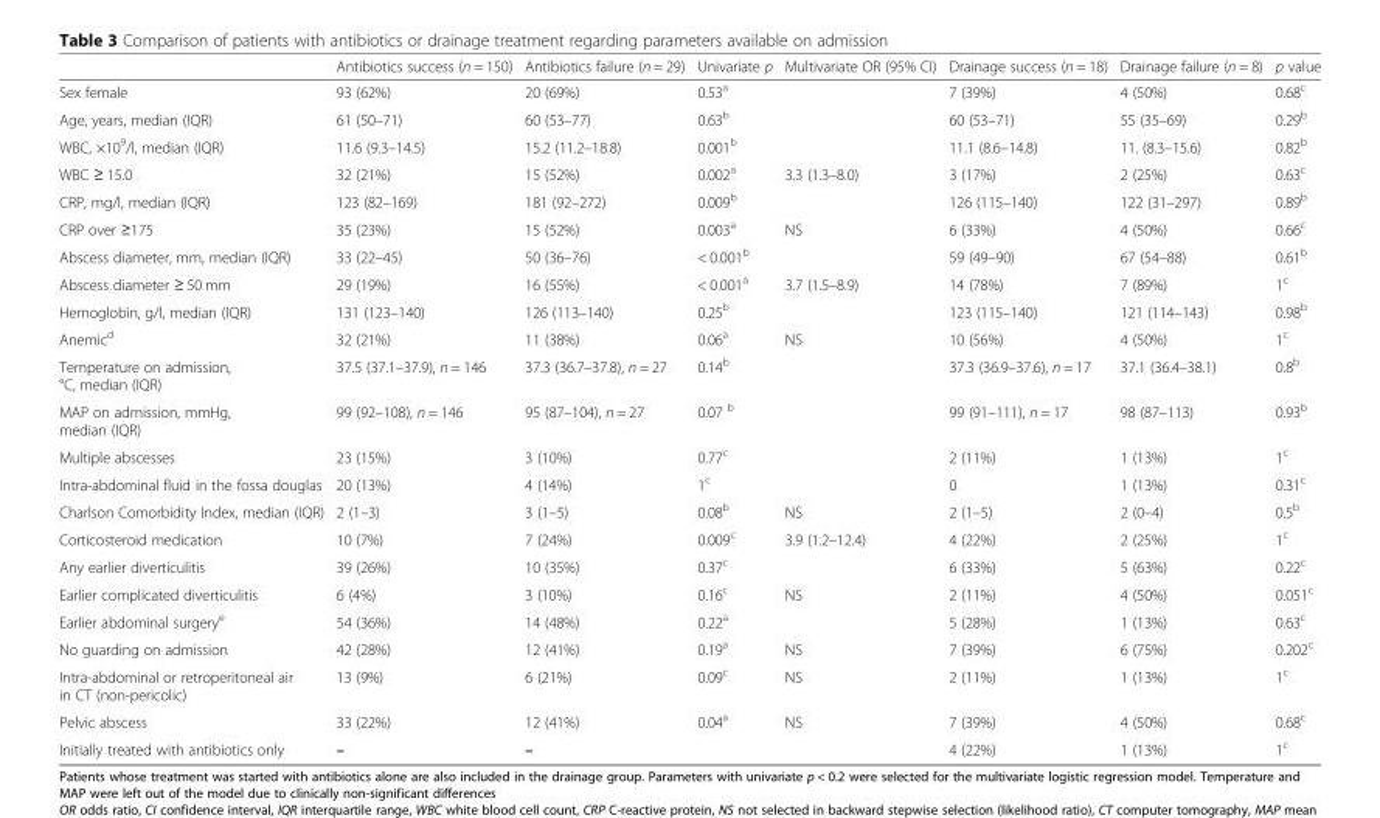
<table><thead><tr><td></td><td>Antibiotics success (n = 150)</td><td>Antibiotics failure (n = 29)</td><td>Univariate p</td><td>Multivariate OR (95% CI)</td><td>Drainage success (n = 18)</td><td>Drainage failure (n = 8)</td><td>p value</td></tr></thead><tbody><tr><td>Sex female</td><td>93 (62%)</td><td>20 (69%)</td><td>0.53<sup>a</sup></td><td></td><td>7 (39%)</td><td>4 (50%)</td><td>0.68<sup>c</sup></td></tr><tr><td>Age, years, median (IQR)</td><td>61 (50–71)</td><td>60 (53–77)</td><td>0.63<sup>b</sup></td><td></td><td>60 (53–71)</td><td>55 (35–69)</td><td>0.29<sup>b</sup></td></tr><tr><td>WBC, ×10<sup>9</sup>/l, median (IQR)</td><td>11.6 (9.3–14.5)</td><td>15.2 (11.2–18.8)</td><td>0.001<sup>b</sup></td><td></td><td>11.1 (8.6–14.8)</td><td>11. (8.3–15.6)</td><td>0.82<sup>b</sup></td></tr><tr><td>WBC ≥ 15.0</td><td>32 (21%)</td><td>15 (52%)</td><td>0.002<sup>a</sup></td><td>3.3 (1.3–8.0)</td><td>3 (17%)</td><td>2 (25%)</td><td>0.63<sup>c</sup></td></tr><tr><td>CRP, mg/l, median (IQR)</td><td>123 (82–169)</td><td>181 (92–272)</td><td>0.009<sup>b</sup></td><td></td><td>126 (115–140)</td><td>122 (31–297)</td><td>0.89<sup>b</sup></td></tr><tr><td>CRP over ≥175</td><td>35 (23%)</td><td>15 (52%)</td><td>0.003<sup>a</sup></td><td>NS</td><td>6 (33%)</td><td>4 (50%)</td><td>0.66<sup>c</sup></td></tr><tr><td>Abscess diameter, mm, median (IQR)</td><td>33 (22–45)</td><td>50 (36–76)</td><td>&lt; 0.001<sup>b</sup></td><td></td><td>59 (49–90)</td><td>67 (54–88)</td><td>0.61<sup>b</sup></td></tr><tr><td>Abscess diameter ≥ 50 mm</td><td>29 (19%)</td><td>16 (55%)</td><td>&lt; 0.001<sup>a</sup></td><td>3.7 (1.5–8.9)</td><td>14 (78%)</td><td>7 (89%)</td><td>1<sup>c</sup></td></tr><tr><td>Hemoglobin, g/l, median (IQR)</td><td>131 (123–140)</td><td>126 (113–140)</td><td>0.25<sup>b</sup></td><td></td><td>123 (115–140)</td><td>121 (114–143)</td><td>0.98<sup>b</sup></td></tr><tr><td>Anemic<sup>d</sup></td><td>32 (21%)</td><td>11 (38%)</td><td>0.06<sup>a</sup></td><td>NS</td><td>10 (56%)</td><td>4 (50%)</td><td>1<sup>c</sup></td></tr><tr><td>Temperature on admission, °C, median (IQR)</td><td>37.5 (37.1–37.9), n = 146</td><td>37.3 (36.7–37.8), n = 27</td><td>0.14<sup>b</sup></td><td></td><td>37.3 (36.9–37.6), n = 17</td><td>37.1 (36.4–38.1)</td><td>0.8<sup>b</sup></td></tr><tr><td>MAP on admission, mmHg, median (IQR)</td><td>99 (92–108), n = 146</td><td>95 (87–104), n = 27</td><td>0.07 <sup>b</sup></td><td></td><td>99 (91–111), n = 17</td><td>98 (87–113)</td><td>0.93<sup>b</sup></td></tr><tr><td>Multiple abscesses</td><td>23 (15%)</td><td>3 (10%)</td><td>0.77<sup>c</sup></td><td></td><td>2 (11%)</td><td>1 (13%)</td><td>1<sup>c</sup></td></tr><tr><td>Intra-abdominal fluid in the fossa douglas</td><td>20 (13%)</td><td>4 (14%)</td><td>1<sup>c</sup></td><td></td><td>0</td><td>1 (13%)</td><td>0.31<sup>c</sup></td></tr><tr><td>Charlson Comorbidity Index, median (IQR)</td><td>2 (1–3)</td><td>3 (1–5)</td><td>0.08<sup>b</sup></td><td>NS</td><td>2 (1–5)</td><td>2 (0–4)</td><td>0.5<sup>b</sup></td></tr><tr><td>Corticosteroid medication</td><td>10 (7%)</td><td>7 (24%)</td><td>0.009<sup>c</sup></td><td>3.9 (1.2–12.4)</td><td>4 (22%)</td><td>2 (25%)</td><td>1<sup>c</sup></td></tr><tr><td>Any earlier diverticulitis</td><td>39 (26%)</td><td>10 (35%)</td><td>0.37<sup>c</sup></td><td></td><td>6 (33%)</td><td>5 (63%)</td><td>0.22<sup>c</sup></td></tr><tr><td>Earlier complicated diverticulitis</td><td>6 (4%)</td><td>3 (10%)</td><td>0.16<sup>c</sup></td><td>NS</td><td>2 (11%)</td><td>4 (50%)</td><td>0.051<sup>c</sup></td></tr><tr><td>Earlier abdominal surgery<sup>e</sup></td><td>54 (36%)</td><td>14 (48%)</td><td>0.22<sup>a</sup></td><td></td><td>5 (28%)</td><td>1 (13%)</td><td>0.63<sup>c</sup></td></tr><tr><td>No guarding on admission</td><td>42 (28%)</td><td>12 (41%)</td><td>0.19<sup>a</sup></td><td>NS</td><td>7 (39%)</td><td>6 (75%)</td><td>0.202<sup>c</sup></td></tr><tr><td>Intra-abdominal or retroperitoneal air in CT (non-pericolic)</td><td>13 (9%)</td><td>6 (21%)</td><td>0.09<sup>c</sup></td><td>NS</td><td>2 (11%)</td><td>1 (13%)</td><td>1<sup>c</sup></td></tr><tr><td>Pelvic abscess</td><td>33 (22%)</td><td>12 (41%)</td><td>0.04<sup>a</sup></td><td>NS</td><td>7 (39%)</td><td>4 (50%)</td><td>0.68<sup>c</sup></td></tr><tr><td>Initially treated with antibiotics only</td><td>–</td><td>–</td><td></td><td></td><td>4 (22%)</td><td>1 (13%)</td><td>1<sup>c</sup></td></tr></tbody></table>